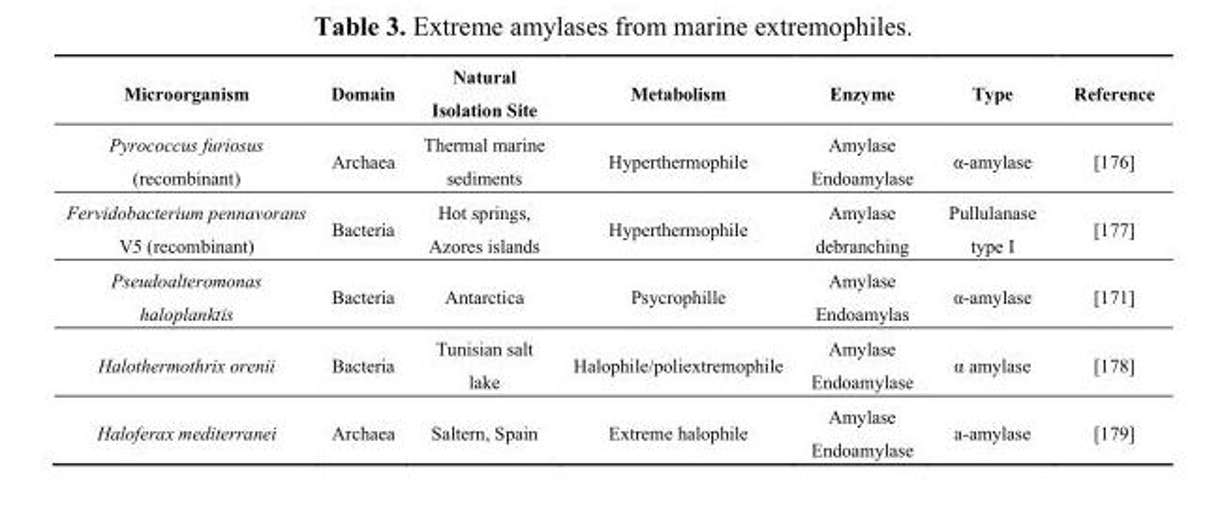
<table><thead><tr><td>Microorganism</td><td>Domain</td><td>Natural Isolation Site</td><td>Metabolism</td><td>Enzyme</td><td>Type</td><td>Reference</td></tr></thead><tbody><tr><td>Pyrococcus furiosus (recombinant)</td><td>Archaea</td><td>Thermal marine sediments</td><td>Hyperthermophile</td><td>Amylase Endoamylase</td><td>α-amylase</td><td>[176]</td></tr><tr><td>Fervidobacterium pennavorans V5 (recombinant)</td><td>Bacteria</td><td>Hot springs, Azores islands</td><td>Hyperthermophile</td><td>Amylase debranching</td><td>Pullulanase type I</td><td>[177]</td></tr><tr><td>Pseudoalteromonas haloplanktis</td><td>Bacteria</td><td>Antarctica</td><td>Psycrophille</td><td>Amylase Endoamylas</td><td>α-amylase</td><td>[171]</td></tr><tr><td>Halothermothrix orenii</td><td>Bacteria</td><td>Tunisian salt lake</td><td>Halophile/poliextremophile</td><td>Amylase Endoamylase</td><td>α amylase</td><td>[178]</td></tr><tr><td>Haloferax mediterranei</td><td>Archaea</td><td>Saltern, Spain</td><td>Extreme halophile</td><td>Amylase Endoamylase</td><td>a-amylase</td><td>[179]</td></tr></tbody></table>